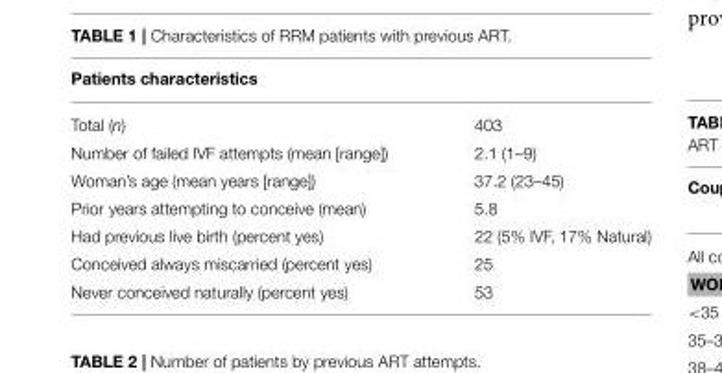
<table><thead><tr><td>Patients characteristics</td><td></td></tr></thead><tbody><tr><td>Total (n)</td><td>403</td></tr><tr><td>Number of failed IVF attempts (mean [range])</td><td>2.1 (1–9)</td></tr><tr><td>Woman’s age (mean years [range])</td><td>37.2 (23–45)</td></tr><tr><td>Prior years attempting to conceive (mean)</td><td>5.8</td></tr><tr><td>Had previous live birth (percent yes)</td><td>22 (5% IVF, 17% Natural)</td></tr><tr><td>Conceived always miscarried (percent yes)</td><td>25</td></tr><tr><td>Never conceived naturally (percent yes)</td><td>53</td></tr></tbody></table>